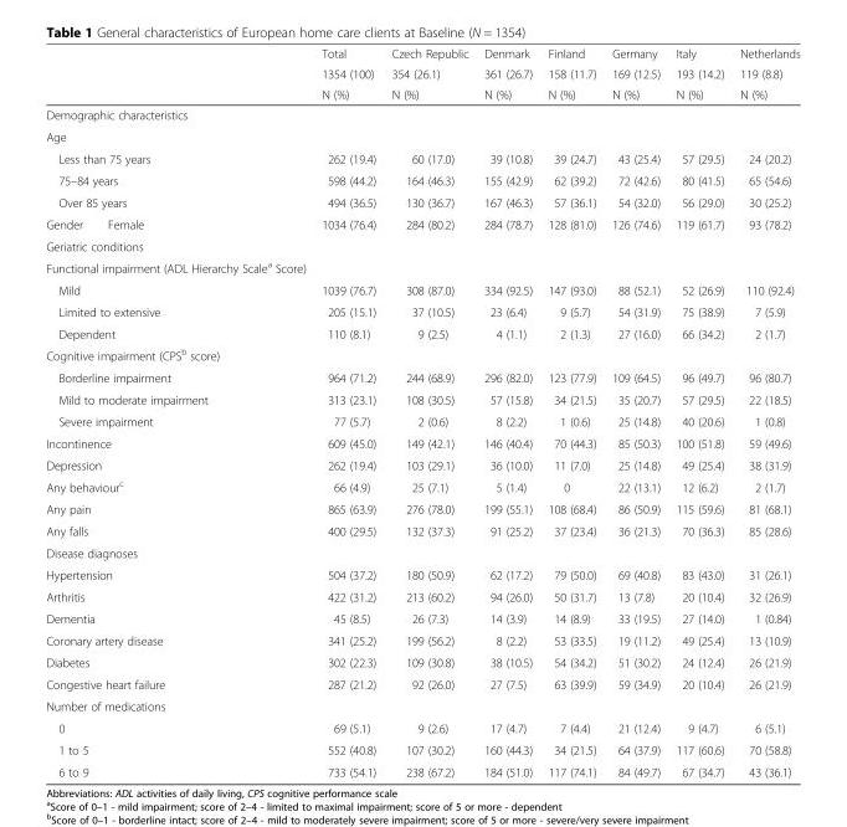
<table><thead><tr><td rowspan="3"></td><td rowspan="3">Total 1354 (100) N (%)</td><td rowspan="3">Czech Republic 354 (26.1) N (%)</td><td rowspan="3">Denmark 361 (26.7) N (%)</td><td rowspan="3">Finland 158 (11.7) N (%)</td><td rowspan="3">Germany 169 (12.5) N (%)</td><td rowspan="3">Italy 193 (14.2) N (%)</td><td rowspan="3">Netherlands 119 (8.8) N (%)</td></tr><tr></tr><tr></tr></thead><tbody><tr><td colspan="8">Demographic characteristics</td></tr><tr><td colspan="8">Age</td></tr><tr><td>Less than 75 years</td><td>262 (19.4)</td><td>60 (17.0)</td><td>39 (10.8)</td><td>39 (24.7)</td><td>43 (25.4)</td><td>57 (29.5)</td><td>24 (20.2)</td></tr><tr><td>75–84 years</td><td>598 (44.2)</td><td>164 (46.3)</td><td>155 (42.9)</td><td>62 (39.2)</td><td>72 (42.6)</td><td>80 (41.5)</td><td>65 (54.6)</td></tr><tr><td>Over 85 years</td><td>494 (36.5)</td><td>130 (36.7)</td><td>167 (46.3)</td><td>57 (36.1)</td><td>54 (32.0)</td><td>56 (29.0)</td><td>30 (25.2)</td></tr><tr><td>Gender Female</td><td>1034 (76.4)</td><td>284 (80.2)</td><td>284 (78.7)</td><td>128 (81.0)</td><td>126 (74.6)</td><td>119 (61.7)</td><td>93 (78.2)</td></tr><tr><td colspan="8">Geriatric conditions</td></tr><tr><td colspan="8">Functional impairment (ADL Hierarchy Scale<sup>a</sup> Score)</td></tr><tr><td>Mild</td><td>1039 (76.7)</td><td>308 (87.0)</td><td>334 (92.5)</td><td>147 (93.0)</td><td>88 (52.1)</td><td>52 (26.9)</td><td>110 (92.4)</td></tr><tr><td>Limited to extensive</td><td>205 (15.1)</td><td>37 (10.5)</td><td>23 (6.4)</td><td>9 (5.7)</td><td>54 (31.9)</td><td>75 (38.9)</td><td>7 (5.9)</td></tr><tr><td>Dependent</td><td>110 (8.1)</td><td>9 (2.5)</td><td>4 (1.1)</td><td>2 (1.3)</td><td>27 (16.0)</td><td>66 (34.2)</td><td>2 (1.7)</td></tr><tr><td colspan="8">Cognitive impairment (CPS<sup>b</sup> score)</td></tr><tr><td>Borderline impairment</td><td>964 (71.2)</td><td>244 (68.9)</td><td>296 (82.0)</td><td>123 (77.9)</td><td>109 (64.5)</td><td>96 (49.7)</td><td>96 (80.7)</td></tr><tr><td>Mild to moderate impairment</td><td>313 (23.1)</td><td>108 (30.5)</td><td>57 (15.8)</td><td>34 (21.5)</td><td>35 (20.7)</td><td>57 (29.5)</td><td>22 (18.5)</td></tr><tr><td>Severe impairment</td><td>77 (5.7)</td><td>2 (0.6)</td><td>8 (2.2)</td><td>1 (0.6)</td><td>25 (14.8)</td><td>40 (20.6)</td><td>1 (0.8)</td></tr><tr><td>Incontinence</td><td>609 (45.0)</td><td>149 (42.1)</td><td>146 (40.4)</td><td>70 (44.3)</td><td>85 (50.3)</td><td>100 (51.8)</td><td>59 (49.6)</td></tr><tr><td>Depression</td><td>262 (19.4)</td><td>103 (29.1)</td><td>36 (10.0)</td><td>11 (7.0)</td><td>25 (14.8)</td><td>49 (25.4)</td><td>38 (31.9)</td></tr><tr><td>Any behaviour<sup>c</sup></td><td>66 (4.9)</td><td>25 (7.1)</td><td>5 (1.4)</td><td>0</td><td>22 (13.1)</td><td>12 (6.2)</td><td>2 (1.7)</td></tr><tr><td>Any pain</td><td>865 (63.9)</td><td>276 (78.0)</td><td>199 (55.1)</td><td>108 (68.4)</td><td>86 (50.9)</td><td>115 (59.6)</td><td>81 (68.1)</td></tr><tr><td>Any falls</td><td>400 (29.5)</td><td>132 (37.3)</td><td>91 (25.2)</td><td>37 (23.4)</td><td>36 (21.3)</td><td>70 (36.3)</td><td>85 (28.6)</td></tr><tr><td colspan="8">Disease diagnoses</td></tr><tr><td>Hypertension</td><td>504 (37.2)</td><td>180 (50.9)</td><td>62 (17.2)</td><td>79 (50.0)</td><td>69 (40.8)</td><td>83 (43.0)</td><td>31 (26.1)</td></tr><tr><td>Arthritis</td><td>422 (31.2)</td><td>213 (60.2)</td><td>94 (26.0)</td><td>50 (31.7)</td><td>13 (7.8)</td><td>20 (10.4)</td><td>32 (26.9)</td></tr><tr><td>Dementia</td><td>45 (8.5)</td><td>26 (7.3)</td><td>14 (3.9)</td><td>14 (8.9)</td><td>33 (19.5)</td><td>27 (14.0)</td><td>1 (0.84)</td></tr><tr><td>Coronary artery disease</td><td>341 (25.2)</td><td>199 (56.2)</td><td>8 (2.2)</td><td>53 (33.5)</td><td>19 (11.2)</td><td>49 (25.4)</td><td>13 (10.9)</td></tr><tr><td>Diabetes</td><td>302 (22.3)</td><td>109 (30.8)</td><td>38 (10.5)</td><td>54 (34.2)</td><td>51 (30.2)</td><td>24 (12.4)</td><td>26 (21.9)</td></tr><tr><td>Congestive heart failure</td><td>287 (21.2)</td><td>92 (26.0)</td><td>27 (7.5)</td><td>63 (39.9)</td><td>59 (34.9)</td><td>20 (10.4)</td><td>26 (21.9)</td></tr><tr><td colspan="8">Number of medications</td></tr><tr><td>0</td><td>69 (5.1)</td><td>9 (2.6)</td><td>17 (4.7)</td><td>7 (4.4)</td><td>21 (12.4)</td><td>9 (4.7)</td><td>6 (5.1)</td></tr><tr><td>1 to 5</td><td>552 (40.8)</td><td>107 (30.2)</td><td>160 (44.3)</td><td>34 (21.5)</td><td>64 (37.9)</td><td>117 (60.6)</td><td>70 (58.8)</td></tr><tr><td>6 to 9</td><td>733 (54.1)</td><td>238 (67.2)</td><td>184 (51.0)</td><td>117 (74.1)</td><td>84 (49.7)</td><td>67 (34.7)</td><td>43 (36.1)</td></tr></tbody></table>